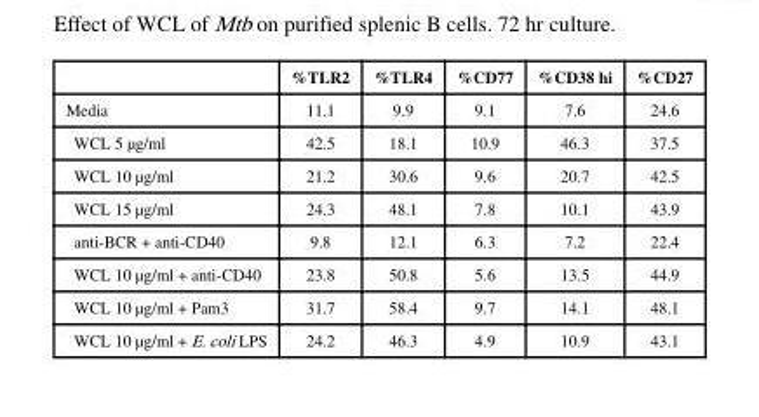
<table><thead><tr><td></td><td>%TLR2</td><td>%TLR4</td><td>%CD77</td><td>%CD38 hi</td><td>%CD27</td></tr></thead><tbody><tr><td>Media</td><td>11.1</td><td>9.9</td><td>9.1</td><td>7.6</td><td>24.6</td></tr><tr><td>WCL 5 µg/ml</td><td>42.5</td><td>18.1</td><td>10.9</td><td>46.3</td><td>37.5</td></tr><tr><td>WCL 10 µg/ml</td><td>21.2</td><td>30.6</td><td>9.6</td><td>20.7</td><td>42.5</td></tr><tr><td>WCL 15 µg/ml</td><td>24.3</td><td>48.1</td><td>7.8</td><td>10.1</td><td>43.9</td></tr><tr><td>anti-BCR + anti-CD40</td><td>9.8</td><td>12.1</td><td>6.3</td><td>7.2</td><td>22.4</td></tr><tr><td>WCL 10 µg/ml + anti-CD40</td><td>23.8</td><td>50.8</td><td>5.6</td><td>13.5</td><td>44.9</td></tr><tr><td>WCL 10 µg/ml + Pam3</td><td>31.7</td><td>58.4</td><td>9.7</td><td>14.1</td><td>48.1</td></tr><tr><td>WCL 10 µg/ml + E. coli LPS</td><td>24.2</td><td>46.3</td><td>4.9</td><td>10.9</td><td>43.1</td></tr></tbody></table>